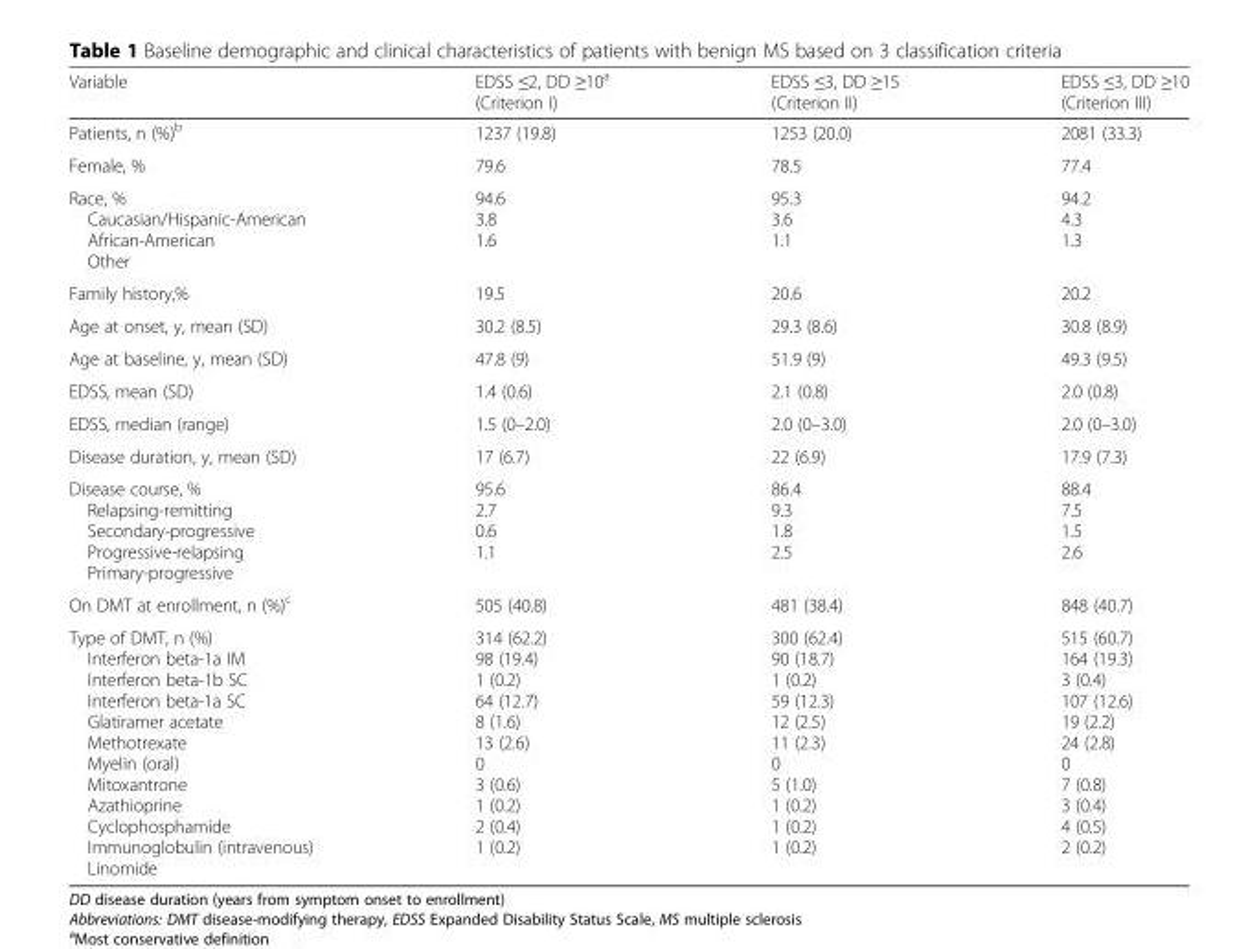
<table><thead><tr><td>Variable</td><td>EDSS ≤2, DD ≥10<sup>a</sup> (Criterion I)</td><td>EDSS ≤3, DD ≥15 (Criterion II)</td><td>EDSS ≤3, DD ≥10 (Criterion III)</td></tr></thead><tbody><tr><td>Patients, n (%)<sup>b</sup></td><td>1237 (19.8)</td><td>1253 (20.0)</td><td>2081 (33.3)</td></tr><tr><td>Female, %</td><td>79.6</td><td>78.5</td><td>77.4</td></tr><tr><td>Race, % Caucasian/Hispanic-American African-American Other</td><td>94.6 3.8 1.6</td><td>95.3 3.6 1.1</td><td>94.2 4.3 1.3</td></tr><tr><td>Family history,%</td><td>19.5</td><td>20.6</td><td>20.2</td></tr><tr><td>Age at onset, y, mean (SD)</td><td>30.2 (8.5)</td><td>29.3 (8.6)</td><td>30.8 (8.9)</td></tr><tr><td>Age at baseline, y, mean (SD)</td><td>47.8 (9)</td><td>51.9 (9)</td><td>49.3 (9.5)</td></tr><tr><td>EDSS, mean (SD)</td><td>1.4 (0.6)</td><td>2.1 (0.8)</td><td>2.0 (0.8)</td></tr><tr><td>EDSS, median (range)</td><td>1.5 (0–2.0)</td><td>2.0 (0–3.0)</td><td>2.0 (0–3.0)</td></tr><tr><td>Disease duration, y, mean (SD)</td><td>17 (6.7)</td><td>22 (6.9)</td><td>17.9 (7.3)</td></tr><tr><td>Disease course, % Relapsing-remitting Secondary-progressive Progressive-relapsing Primary-progressive</td><td>95.6 2.7 0.6 1.1</td><td>86.4 9.3 1.8 2.5</td><td>88.4 7.5 1.5 2.6</td></tr><tr><td>On DMT at enrollment, n (%)<sup>c</sup></td><td>505 (40.8)</td><td>481 (38.4)</td><td>848 (40.7)</td></tr><tr><td>Type of DMT, n (%) Interferon beta-1a IM Interferon beta-1b SC Interferon beta-1a SC Glatiramer acetate Methotrexate Myelin (oral) Mitoxantrone Azathioprine Cyclophosphamide Immunoglobulin (intravenous) Linomide</td><td>314 (62.2) 98 (19.4) 1 (0.2) 64 (12.7) 8 (1.6) 13 (2.6) 0 3 (0.6) 1 (0.2) 2 (0.4) 1 (0.2)</td><td>300 (62.4) 90 (18.7) 1 (0.2) 59 (12.3) 12 (2.5) 11 (2.3) 0 5 (1.0) 1 (0.2) 1 (0.2) 1 (0.2)</td><td>515 (60.7) 164 (19.3) 3 (0.4) 107 (12.6) 19 (2.2) 24 (2.8) 0 7 (0.8) 3 (0.4) 4 (0.5) 2 (0.2)</td></tr></tbody></table>